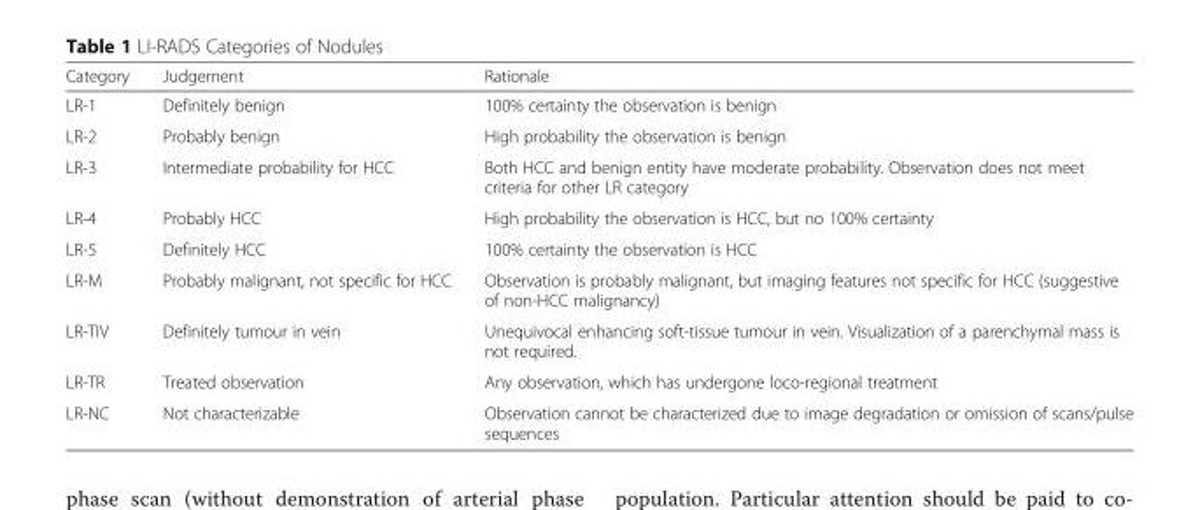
<table><thead><tr><td>Category</td><td>Judgement</td><td>Rationale</td></tr></thead><tbody><tr><td>LR-1</td><td>Definitely benign</td><td>100% certainty the observation is benign</td></tr><tr><td>LR-2</td><td>Probably benign</td><td>High probability the observation is benign</td></tr><tr><td>LR-3</td><td>Intermediate probability for HCC</td><td>Both HCC and benign entity have moderate probability. Observation does not meet criteria for other LR category</td></tr><tr><td>LR-4</td><td>Probably HCC</td><td>High probability the observation is HCC, but no 100% certainty</td></tr><tr><td>LR-5</td><td>Definitely HCC</td><td>100% certainty the observation is HCC</td></tr><tr><td>LR-M</td><td>Probably malignant, not specific for HCC</td><td>Observation is probably malignant, but imaging features not specific for HCC (suggestive of non-HCC malignancy)</td></tr><tr><td>LR-TIV</td><td>Definitely tumour in vein</td><td>Unequivocal enhancing soft-tissue tumour in vein. Visualization of a parenchymal mass is not required.</td></tr><tr><td>LR-TR</td><td>Treated observation</td><td>Any observation, which has undergone loco-regional treatment</td></tr><tr><td>LR-NC</td><td>Not characterizable</td><td>Observation cannot be characterized due to image degradation or omission of scans/pulse sequences</td></tr></tbody></table>